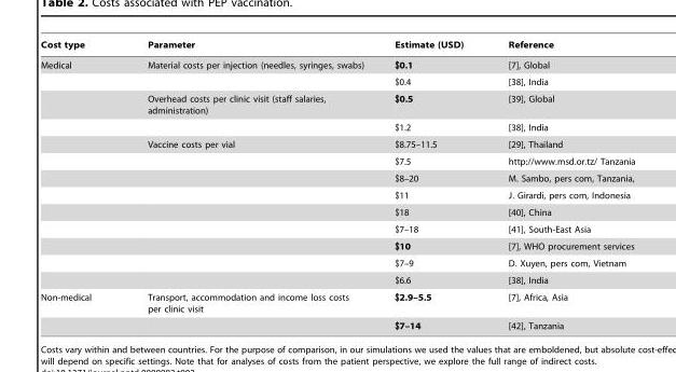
<table><thead><tr><td>Cost type</td><td>Parameter</td><td>Estimate (USD)</td><td>Reference</td></tr></thead><tbody><tr><td rowspan="13">Medical</td><td>Material costs per injection (needles, syringes, swabs)</td><td>$0.1</td><td>[7], Global</td></tr><tr><td></td><td>$0.4</td><td>[38], India</td></tr><tr><td>Overhead costs per clinic visit (staff salaries, administration)</td><td>$0.5</td><td>[39], Global</td></tr><tr><td></td><td>$1.2</td><td>[38], India</td></tr><tr><td>Vaccine costs per vial</td><td>$8.75–11.5</td><td>[29], Thailand</td></tr><tr><td></td><td>$7.5</td><td>http://www.msd.or.tz/ Tanzania</td></tr><tr><td></td><td>$8–20</td><td>M. Sambo, pers com, Tanzania,</td></tr><tr><td></td><td>$11</td><td>J. Girardi, pers com, Indonesia</td></tr><tr><td></td><td>$18</td><td>[40], China</td></tr><tr><td></td><td>$7–18</td><td>[41], South-East Asia</td></tr><tr><td></td><td>$10</td><td>[7], WHO procurement services</td></tr><tr><td></td><td>$7–9</td><td>D. Xuyen, pers com, Vietnam</td></tr><tr><td></td><td>$6.6</td><td>[38], India</td></tr><tr><td rowspan="2">Non-medical</td><td>Transport, accommodation and income loss costs per clinic visit</td><td>$2.9–5.5</td><td>[7], Africa, Asia</td></tr><tr><td></td><td>$7–14</td><td>[42], Tanzania</td></tr></tbody></table>